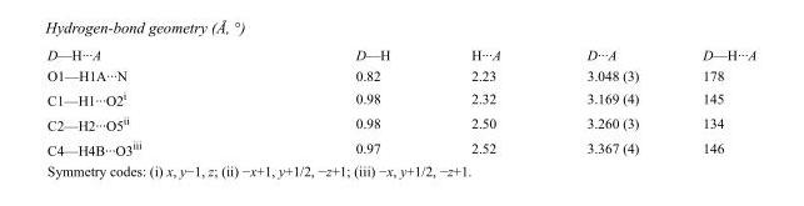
<table><tbody><tr><td>D—H···A</td><td>D—H</td><td>H···A</td><td>D···A</td><td>D—H···A</td></tr><tr><td>O1—H1A···N</td><td>0.82</td><td>2.23</td><td>3.048 (3)</td><td>178</td></tr><tr><td>C1—H1···O2<sup>i</sup></td><td>0.98</td><td>2.32</td><td>3.169 (4)</td><td>145</td></tr><tr><td>C2—H2···O5<sup>ii</sup></td><td>0.98</td><td>2.50</td><td>3.260 (3)</td><td>134</td></tr><tr><td>C4—H4B···O3<sup>iii</sup></td><td>0.97</td><td>2.52</td><td>3.367 (4)</td><td>146</td></tr></tbody></table>